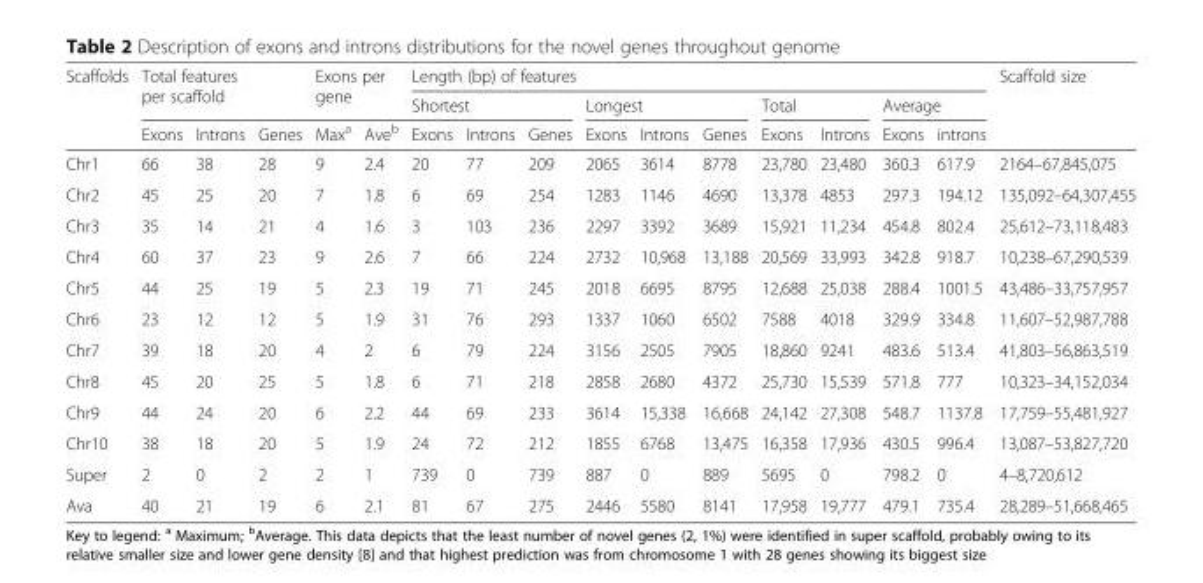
<table><thead><tr><td rowspan="3">Scaffolds</td><td rowspan="2" colspan="3">Total features per scaffold</td><td rowspan="2" colspan="2">Exons per gene</td><td colspan="10">Length (bp) of features</td><td rowspan="3">Scaffold size</td></tr><tr><td colspan="3">Shortest</td><td colspan="3">Longest</td><td colspan="2">Total</td><td colspan="2">Average</td></tr><tr><td>Exons</td><td>Introns</td><td>Genes</td><td>Max<sup>a</sup></td><td>Ave<sup>b</sup></td><td>Exons</td><td>Introns</td><td>Genes</td><td>Exons</td><td>Introns</td><td>Genes</td><td>Exons</td><td>Introns</td><td>Exons</td><td>introns</td></tr></thead><tbody><tr><td>Chr1</td><td>66</td><td>38</td><td>28</td><td>9</td><td>2.4</td><td>20</td><td>77</td><td>209</td><td>2065</td><td>3614</td><td>8778</td><td>23,780</td><td>23,480</td><td>360.3</td><td>617.9</td><td>2164–67,845,075</td></tr><tr><td>Chr2</td><td>45</td><td>25</td><td>20</td><td>7</td><td>1.8</td><td>6</td><td>69</td><td>254</td><td>1283</td><td>1146</td><td>4690</td><td>13,378</td><td>4853</td><td>297.3</td><td>194.12</td><td>135,092–64,307,455</td></tr><tr><td>Chr3</td><td>35</td><td>14</td><td>21</td><td>4</td><td>1.6</td><td>3</td><td>103</td><td>236</td><td>2297</td><td>3392</td><td>3689</td><td>15,921</td><td>11,234</td><td>454.8</td><td>802.4</td><td>25,612–73,118,483</td></tr><tr><td>Chr4</td><td>60</td><td>37</td><td>23</td><td>9</td><td>2.6</td><td>7</td><td>66</td><td>224</td><td>2732</td><td>10,968</td><td>13,188</td><td>20,569</td><td>33,993</td><td>342.8</td><td>918.7</td><td>10,238–67,290,539</td></tr><tr><td>Chr5</td><td>44</td><td>25</td><td>19</td><td>5</td><td>2.3</td><td>19</td><td>71</td><td>245</td><td>2018</td><td>6695</td><td>8795</td><td>12,688</td><td>25,038</td><td>288.4</td><td>1001.5</td><td>43,486–33,757,957</td></tr><tr><td>Chr6</td><td>23</td><td>12</td><td>12</td><td>5</td><td>1.9</td><td>31</td><td>76</td><td>293</td><td>1337</td><td>1060</td><td>6502</td><td>7588</td><td>4018</td><td>329.9</td><td>334.8</td><td>11,607–52,987,788</td></tr><tr><td>Chr7</td><td>39</td><td>18</td><td>20</td><td>4</td><td>2</td><td>6</td><td>79</td><td>224</td><td>3156</td><td>2505</td><td>7905</td><td>18,860</td><td>9241</td><td>483.6</td><td>513.4</td><td>41,803–56,863,519</td></tr><tr><td>Chr8</td><td>45</td><td>20</td><td>25</td><td>5</td><td>1.8</td><td>6</td><td>71</td><td>218</td><td>2858</td><td>2680</td><td>4372</td><td>25,730</td><td>15,539</td><td>571.8</td><td>777</td><td>10,323–34,152,034</td></tr><tr><td>Chr9</td><td>44</td><td>24</td><td>20</td><td>6</td><td>2.2</td><td>44</td><td>69</td><td>233</td><td>3614</td><td>15,338</td><td>16,668</td><td>24,142</td><td>27,308</td><td>548.7</td><td>1137.8</td><td>17,759–55,481,927</td></tr><tr><td>Chr10</td><td>38</td><td>18</td><td>20</td><td>5</td><td>1.9</td><td>24</td><td>72</td><td>212</td><td>1855</td><td>6768</td><td>13,475</td><td>16,358</td><td>17,936</td><td>430.5</td><td>996.4</td><td>13,087–53,827,720</td></tr><tr><td>Super</td><td>2</td><td>0</td><td>2</td><td>2</td><td>1</td><td>739</td><td>0</td><td>739</td><td>887</td><td>0</td><td>889</td><td>5695</td><td>0</td><td>798.2</td><td>0</td><td>4–8,720,612</td></tr><tr><td>Ava</td><td>40</td><td>21</td><td>19</td><td>6</td><td>2.1</td><td>81</td><td>67</td><td>275</td><td>2446</td><td>5580</td><td>8141</td><td>17,958</td><td>19,777</td><td>479.1</td><td>735.4</td><td>28,289–51,668,465</td></tr></tbody></table>